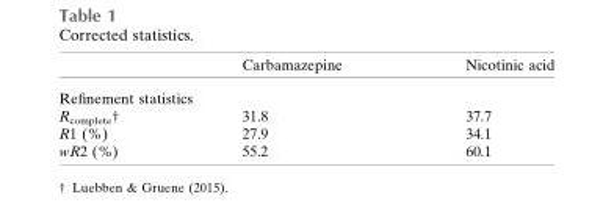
<table><thead><tr><td></td><td>Carbamazepine</td><td>Nicotinic acid</td></tr></thead><tbody><tr><td colspan="3">Refinement statistics</td></tr><tr><td>R<sub>complete</sub>†</td><td>31.8</td><td>37.7</td></tr><tr><td>R1 (%)</td><td>27.9</td><td>34.1</td></tr><tr><td>wR2 (%)</td><td>55.2</td><td>60.1</td></tr></tbody></table>